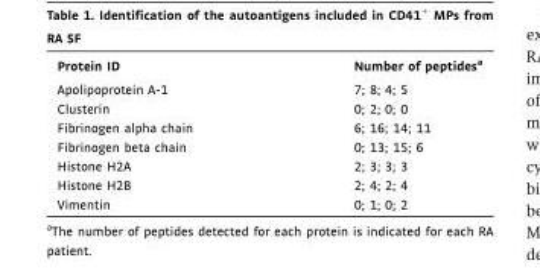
<table><thead><tr><td>Protein ID</td><td>Number of peptides<sup>a</sup></td></tr></thead><tbody><tr><td>Apolipoprotein A-1</td><td>7; 8; 4; 5</td></tr><tr><td>Clusterin</td><td>0; 2; 0; 0</td></tr><tr><td>Fibrinogen alpha chain</td><td>6; 16; 14; 11</td></tr><tr><td>Fibrinogen beta chain</td><td>0; 13; 15; 6</td></tr><tr><td>Histone H2A</td><td>2; 3; 3; 3</td></tr><tr><td>Histone H2B</td><td>2; 4; 2; 4</td></tr><tr><td>Vimentin</td><td>0; 1; 0; 2</td></tr></tbody></table>